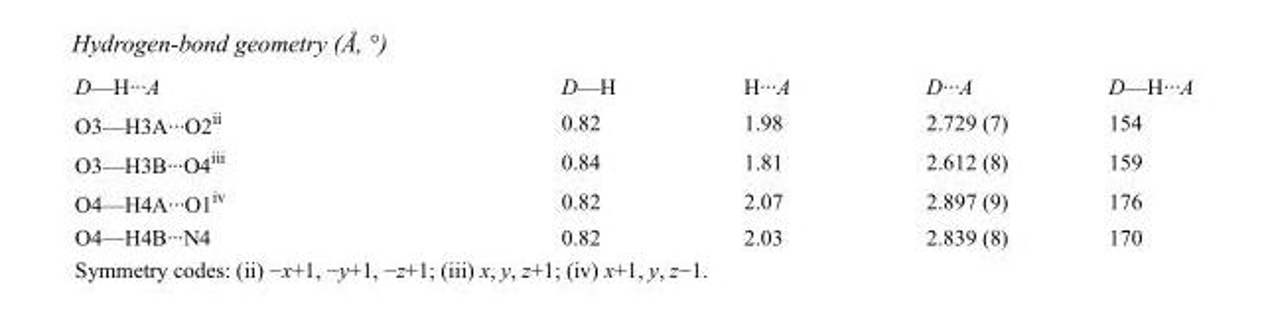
<table><tbody><tr><td>D—H···A</td><td>D—H</td><td>H···A</td><td>D···A</td><td>D—H···A</td></tr><tr><td>O3—H3A···O2<sup>ii</sup></td><td>0.82</td><td>1.98</td><td>2.729 (7)</td><td>154</td></tr><tr><td>O3—H3B···O4<sup>iii</sup></td><td>0.84</td><td>1.81</td><td>2.612 (8)</td><td>159</td></tr><tr><td>O4—H4A···O1<sup>iv</sup></td><td>0.82</td><td>2.07</td><td>2.897 (9)</td><td>176</td></tr><tr><td>O4—H4B···N4</td><td>0.82</td><td>2.03</td><td>2.839 (8)</td><td>170</td></tr></tbody></table>